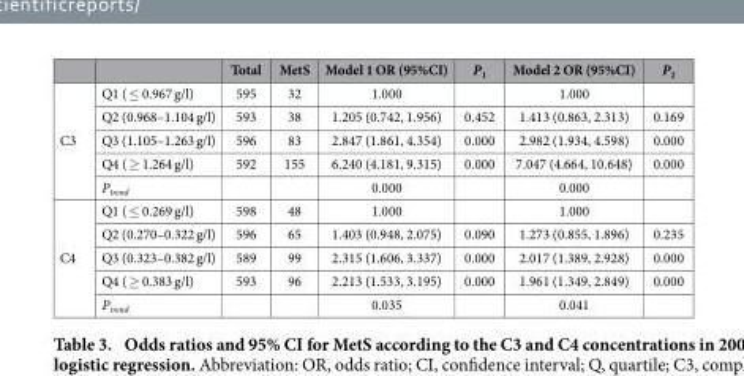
<table><thead><tr><td></td><td></td><td>Total</td><td>MetS</td><td>Model 1 OR (95%CI)</td><td>P<sub>1</sub></td><td>Model 2 OR (95%CI)</td><td>P<sub>2</sub></td></tr></thead><tbody><tr><td rowspan="5">C3</td><td>Q1 ( ≤ 0.967 g/l)</td><td>595</td><td>32</td><td>1.000</td><td></td><td>1.000</td><td></td></tr><tr><td>Q2 (0.968–1.104 g/l)</td><td>593</td><td>38</td><td>1.205 (0.742, 1.956)</td><td>0.452</td><td>1.413 (0.863, 2.313)</td><td>0.169</td></tr><tr><td>Q3 (1.105–1.263 g/l)</td><td>596</td><td>83</td><td>2.847 (1.861, 4.354)</td><td>0.000</td><td>2.982 (1.934, 4.598)</td><td>0.000</td></tr><tr><td>Q4 ( ≥ 1.264 g/l)</td><td>592</td><td>155</td><td>6.240 (4.181, 9.315)</td><td>0.000</td><td>7.047 (4.664, 10.648)</td><td>0.000</td></tr><tr><td>P<sub>trend</sub></td><td></td><td></td><td>0.000</td><td></td><td>0.000</td><td></td></tr><tr><td rowspan="5">C4</td><td>Q1 ( ≤ 0.269 g/l)</td><td>598</td><td>48</td><td>1.000</td><td></td><td>1.000</td><td></td></tr><tr><td>Q2 (0.270–0.322 g/l)</td><td>596</td><td>65</td><td>1.403 (0.948, 2.075)</td><td>0.090</td><td>1.273 (0.855, 1.896)</td><td>0.235</td></tr><tr><td>Q3 (0.323–0.382 g/l)</td><td>589</td><td>99</td><td>2.315 (1.606, 3.337)</td><td>0.000</td><td>2.017 (1.389, 2.928)</td><td>0.000</td></tr><tr><td>Q4 ( ≥ 0.383 g/l)</td><td>593</td><td>96</td><td>2.213 (1.533, 3.195)</td><td>0.000</td><td>1.961 (1.349, 2.849)</td><td>0.000</td></tr><tr><td>P<sub>trend</sub></td><td></td><td></td><td>0.035</td><td></td><td>0.041</td><td></td></tr></tbody></table>